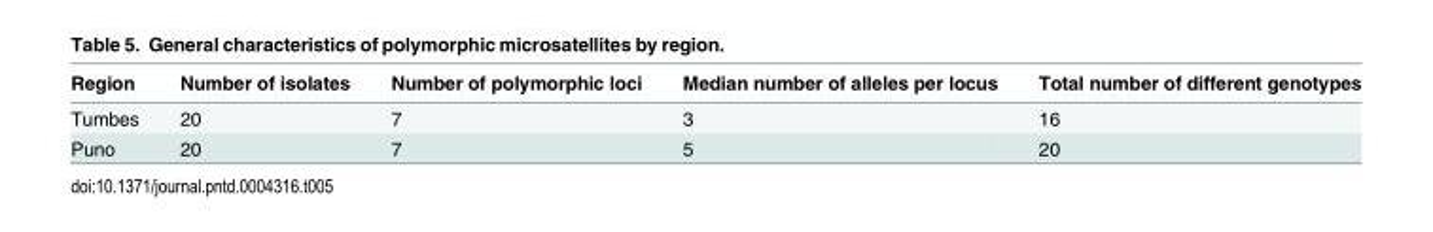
<table><thead><tr><td>Region</td><td>Number of isolates</td><td>Number of polymorphic loci</td><td>Median number of alleles per locus</td><td>Total number of different genotypes</td></tr></thead><tbody><tr><td>Tumbes</td><td>20</td><td>7</td><td>3</td><td>16</td></tr><tr><td>Puno</td><td>20</td><td>7</td><td>5</td><td>20</td></tr></tbody></table>